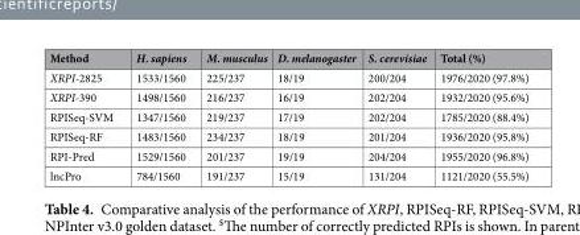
<table><thead><tr><td>Method</td><td>H. sapiens</td><td>M. musculus</td><td>D. melanogaster</td><td>S. cerevisiae</td><td>Total (%)</td></tr></thead><tbody><tr><td>XRPI-2825</td><td>1533/1560</td><td>225/237</td><td>18/19</td><td>200/204</td><td>1976/2020 (97.8%)</td></tr><tr><td>XRPI-390</td><td>1498/1560</td><td>216/237</td><td>16/19</td><td>202/204</td><td>1932/2020 (95.6%)</td></tr><tr><td>RPISeq-SVM</td><td>1347/1560</td><td>219/237</td><td>17/19</td><td>202/204</td><td>1785/2020 (88.4%)</td></tr><tr><td>RPISeq-RF</td><td>1483/1560</td><td>234/237</td><td>18/19</td><td>201/204</td><td>1936/2020 (95.8%)</td></tr><tr><td>RPI-Pred</td><td>1529/1560</td><td>201/237</td><td>19/19</td><td>204/204</td><td>1955/2020 (96.8%)</td></tr><tr><td>lncPro</td><td>784/1560</td><td>191/237</td><td>15/19</td><td>131/204</td><td>1121/2020 (55.5%)</td></tr></tbody></table>